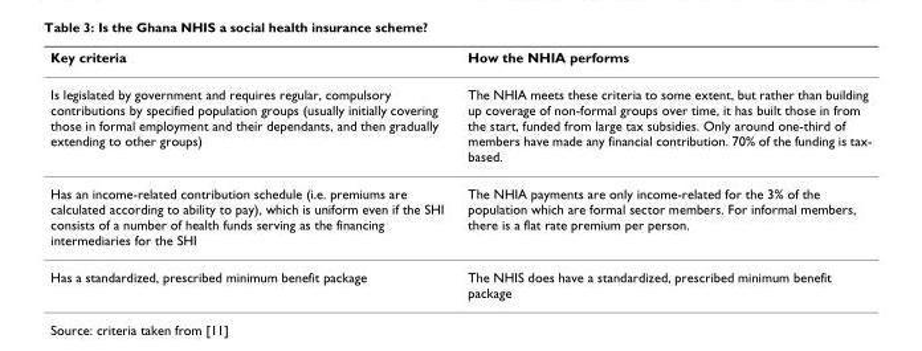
<table><thead><tr><td>Key criteria</td><td>How the NHIA performs</td></tr></thead><tbody><tr><td>Is legislated by government and requires regular, compulsory contributions by specified population groups (usually initially covering those in formal employment and their dependants, and then gradually extending to other groups)</td><td>The NHIA meets these criteria to some extent, but rather than building up coverage of non-formal groups over time, it has built those in from the start, funded from large tax subsidies. Only around one-third of members have made any financial contribution. 70% of the funding is tax- based.</td></tr><tr><td>Has an income-related contribution schedule (i.e. premiums are calculated according to ability to pay), which is uniform even if the SHI consists of a number of health funds serving as the financing intermediaries for the SHI</td><td>The NHIA payments are only income-related for the 3% of the population which are formal sector members. For informal members, there is a flat rate premium per person.</td></tr><tr><td>Has a standardized, prescribed minimum benefit package</td><td>The NHIS does have a standardized, prescribed minimum benefit package</td></tr></tbody></table>